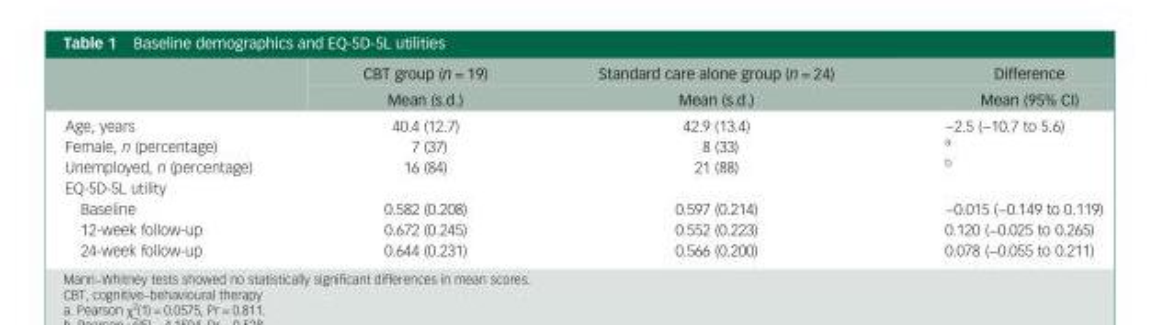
<table><thead><tr><td rowspan="2"></td><td rowspan="2">CBT group (n = 19) Mean (s.d.)</td><td rowspan="2">Standard care alone group (n = 24) Mean (s.d.)</td><td rowspan="2">Difference Mean (95% CI)</td></tr><tr></tr></thead><tbody><tr><td>Age, years</td><td>40.4 (12.7)</td><td>42.9 (13.4)</td><td>−2.5 (−10.7 to 5.6)</td></tr><tr><td>Female, n (percentage)</td><td>7 (37)</td><td>8 (33)</td><td><sup>a</sup></td></tr><tr><td>Unemployed, n (percentage)</td><td>16 (84)</td><td>21 (88)</td><td><sup>b</sup></td></tr><tr><td colspan="4">EQ-5D-5L utility</td></tr><tr><td>Baseline</td><td>0.582 (0.208)</td><td>0.597 (0.214)</td><td>−0.015 (−0.149 to 0.119)</td></tr><tr><td>12-week follow-up</td><td>0.672 (0.245)</td><td>0.552 (0.223)</td><td>0.120 (−0.025 to 0.265)</td></tr><tr><td>24-week follow-up</td><td>0.644 (0.231)</td><td>0.566 (0.200)</td><td>0.078 (−0.055 to 0.211)</td></tr></tbody></table>